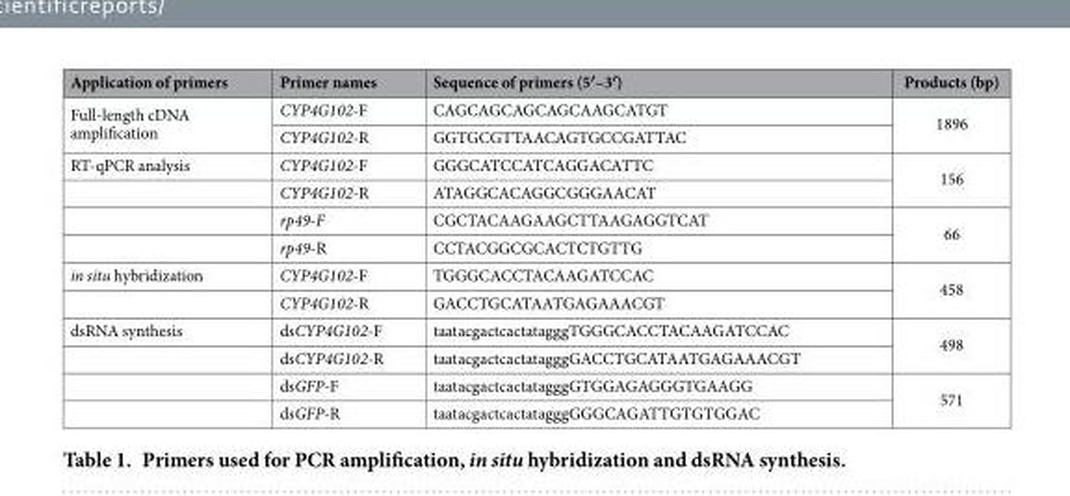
<table><thead><tr><td>Application of primers</td><td>Primer names</td><td>Sequence of primers (5′–3′)</td><td>Products (bp)</td></tr></thead><tbody><tr><td rowspan="2">Full-length cDNA amplification</td><td>CYP4G102-F</td><td>CAGCAGCAGCAGCAAGCATGT</td><td rowspan="2">1896</td></tr><tr><td>CYP4G102-R</td><td>GGTGCGTTAACAGTGCCGATTAC</td></tr><tr><td rowspan="4">RT-qPCR analysis</td><td>CYP4G102-F</td><td>GGGCATCCATCAGGACATTC</td><td rowspan="2">156</td></tr><tr><td>CYP4G102-R</td><td>ATAGGCACAGGCGGGAACAT</td></tr><tr><td>rp49-F</td><td>CGCTACAAGAAGCTTAAGAGGTCAT</td><td rowspan="2">66</td></tr><tr><td>rp49-R</td><td>CCTACGGCGCACTCTGTTG</td></tr><tr><td rowspan="2">in situ hybridization</td><td>CYP4G102-F</td><td>TGGGCACCTACAAGATCCAC</td><td rowspan="2">458</td></tr><tr><td>CYP4G102-R</td><td>GACCTGCATAATGAGAAACGT</td></tr><tr><td rowspan="4">dsRNA synthesis</td><td>dsCYP4G102-F</td><td>taatacgactcactatagggTGGGCACCTACAAGATCCAC</td><td rowspan="2">498</td></tr><tr><td>dsCYP4G102-R</td><td>taatacgactcactatagggGACCTGCATAATGAGAAACGT</td></tr><tr><td>dsGFP-F</td><td>taatacgactcactatagggGTGGAGAGGGTGAAGG</td><td rowspan="2">571</td></tr><tr><td>dsGFP-R</td><td>taatacgactcactatagggGGGCAGATTGTGTGGAC</td></tr></tbody></table>